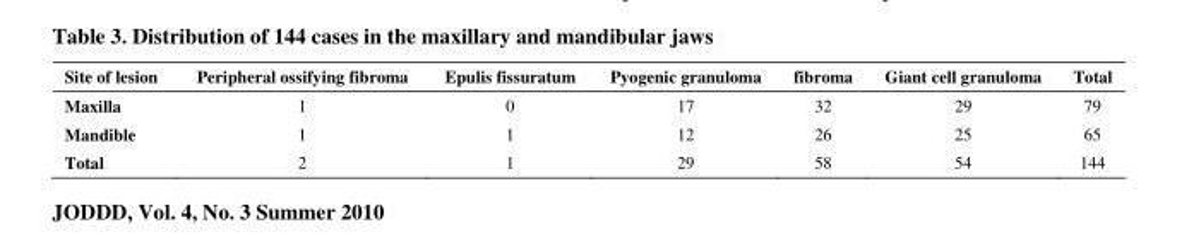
<table><tbody><tr><td>Site of lesion</td><td>Peripheral ossifying fibroma</td><td>Epulis fissuratum</td><td>Pyogenic granuloma</td><td>fibroma</td><td>Giant cell granuloma</td><td>Total</td></tr><tr><td>Maxilla</td><td>1</td><td>0</td><td>17</td><td>32</td><td>29</td><td>79</td></tr><tr><td>Mandible</td><td>1</td><td>1</td><td>12</td><td>26</td><td>25</td><td>65</td></tr><tr><td>Total</td><td>2</td><td>1</td><td>29</td><td>58</td><td>54</td><td>144</td></tr></tbody></table>